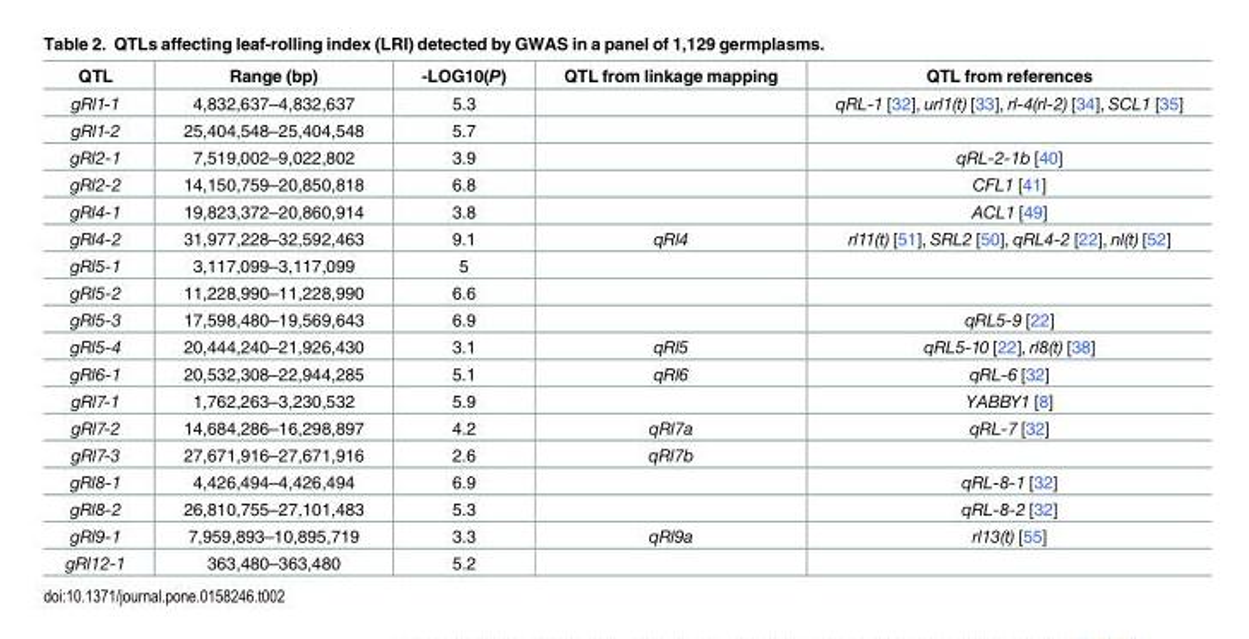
<table><thead><tr><td>QTL</td><td>Range (bp)</td><td>-LOG10(P)</td><td>QTL from linkage mapping</td><td>QTL from references</td></tr></thead><tbody><tr><td>gRl1-1</td><td>4,832,637–4,832,637</td><td>5.3</td><td></td><td>qRL-1 [32], url1(t) [33], rl-4(rl-2) [34], SCL1 [35]</td></tr><tr><td>gRl1-2</td><td>25,404,548–25,404,548</td><td>5.7</td><td></td><td></td></tr><tr><td>gRl2-1</td><td>7,519,002–9,022,802</td><td>3.9</td><td></td><td>qRL-2-1b [40]</td></tr><tr><td>gRl2-2</td><td>14,150,759–20,850,818</td><td>6.8</td><td></td><td>CFL1 [41]</td></tr><tr><td>gRl4-1</td><td>19,823,372–20,860,914</td><td>3.8</td><td></td><td>ACL1 [49]</td></tr><tr><td>gRl4-2</td><td>31,977,228–32,592,463</td><td>9.1</td><td>qRl4</td><td>rl11(t) [51], SRL2 [50], qRL4-2 [22], nl(t) [52]</td></tr><tr><td>gRl5-1</td><td>3,117,099–3,117,099</td><td>5</td><td></td><td></td></tr><tr><td>gRl5-2</td><td>11,228,990–11,228,990</td><td>6.6</td><td></td><td></td></tr><tr><td>gRl5-3</td><td>17,598,480–19,569,643</td><td>6.9</td><td></td><td>qRL5-9 [22]</td></tr><tr><td>gRl5-4</td><td>20,444,240–21,926,430</td><td>3.1</td><td>qRl5</td><td>qRL5-10 [22], rl8(t) [38]</td></tr><tr><td>gRl6-1</td><td>20,532,308–22,944,285</td><td>5.1</td><td>qRl6</td><td>qRL-6 [32]</td></tr><tr><td>gRl7-1</td><td>1,762,263–3,230,532</td><td>5.9</td><td></td><td>YABBY1 [8]</td></tr><tr><td>gRl7-2</td><td>14,684,286–16,298,897</td><td>4.2</td><td>qRl7a</td><td>qRL-7 [32]</td></tr><tr><td>gRl7-3</td><td>27,671,916–27,671,916</td><td>2.6</td><td>qRl7b</td><td></td></tr><tr><td>gRl8-1</td><td>4,426,494–4,426,494</td><td>6.9</td><td></td><td>qRL-8-1 [32]</td></tr><tr><td>gRl8-2</td><td>26,810,755–27,101,483</td><td>5.3</td><td></td><td>qRL-8-2 [32]</td></tr><tr><td>gRl9-1</td><td>7,959,893–10,895,719</td><td>3.3</td><td>qRl9a</td><td>rl13(t) [55]</td></tr><tr><td>gRl12-1</td><td>363,480–363,480</td><td>5.2</td><td></td><td></td></tr></tbody></table>